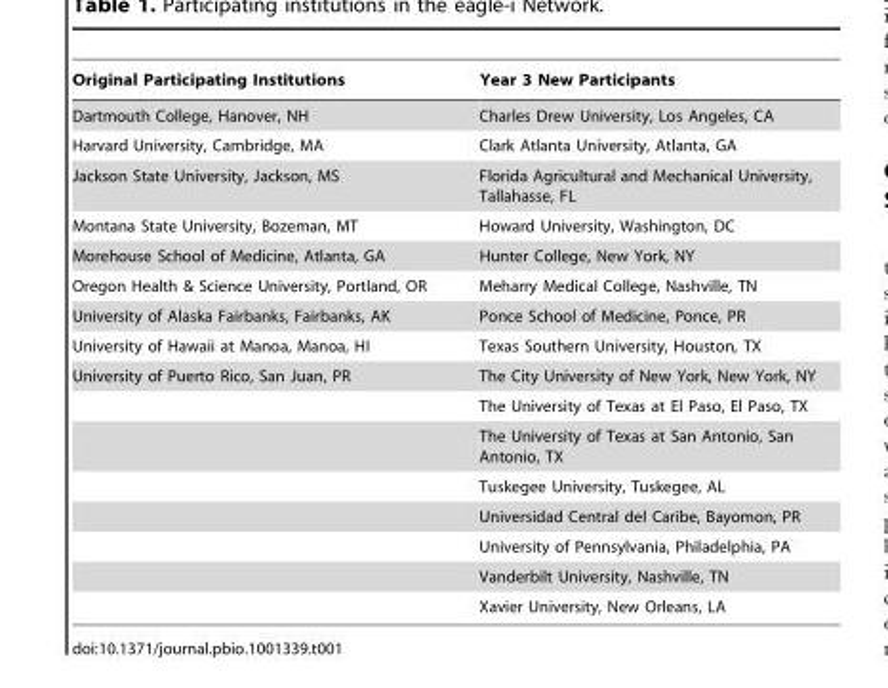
<table><thead><tr><td>Original Participating Institutions</td><td>Year 3 New Participants</td></tr></thead><tbody><tr><td>Dartmouth College, Hanover, NH</td><td>Charles Drew University, Los Angeles, CA</td></tr><tr><td>Harvard University, Cambridge, MA</td><td>Clark Atlanta University, Atlanta, GA</td></tr><tr><td>Jackson State University, Jackson, MS</td><td>Florida Agricultural and Mechanical University, Tallahasse, FL</td></tr><tr><td>Montana State University, Bozeman, MT</td><td>Howard University, Washington, DC</td></tr><tr><td>Morehouse School of Medicine, Atlanta, GA</td><td>Hunter College, New York, NY</td></tr><tr><td>Oregon Health &amp; Science University, Portland, OR</td><td>Meharry Medical College, Nashville, TN</td></tr><tr><td>University of Alaska Fairbanks, Fairbanks, AK</td><td>Ponce School of Medicine, Ponce, PR</td></tr><tr><td>University of Hawaii at Manoa, Manoa, HI</td><td>Texas Southern University, Houston, TX</td></tr><tr><td rowspan="8">University of Puerto Rico, San Juan, PR</td><td>The City University of New York, New York, NY</td></tr><tr><td>The University of Texas at El Paso, El Paso, TX</td></tr><tr><td>The University of Texas at San Antonio, San Antonio, TX</td></tr><tr><td>Tuskegee University, Tuskegee, AL</td></tr><tr><td>Universidad Central del Caribe, Bayomon, PR</td></tr><tr><td>University of Pennsylvania, Philadelphia, PA</td></tr><tr><td>Vanderbilt University, Nashville, TN</td></tr><tr><td>Xavier University, New Orleans, LA</td></tr></tbody></table>